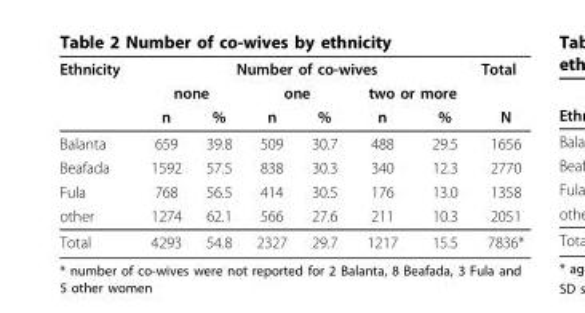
<table><thead><tr><td rowspan="3">Ethnicity</td><td colspan="6">Number of co-wives</td><td rowspan="3">Total N</td></tr><tr><td colspan="2">none</td><td colspan="2">one</td><td colspan="2">two or more</td></tr><tr><td>n</td><td>%</td><td>n</td><td>%</td><td>n</td><td>%</td></tr></thead><tbody><tr><td>Balanta</td><td>659</td><td>39.8</td><td>509</td><td>30.7</td><td>488</td><td>29.5</td><td>1656</td></tr><tr><td>Beafada</td><td>1592</td><td>57.5</td><td>838</td><td>30.3</td><td>340</td><td>12.3</td><td>2770</td></tr><tr><td>Fula</td><td>768</td><td>56.5</td><td>414</td><td>30.5</td><td>176</td><td>13.0</td><td>1358</td></tr><tr><td>other</td><td>1274</td><td>62.1</td><td>566</td><td>27.6</td><td>211</td><td>10.3</td><td>2051</td></tr><tr><td>Total</td><td>4293</td><td>54.8</td><td>2327</td><td>29.7</td><td>1217</td><td>15.5</td><td>7836*</td></tr></tbody></table>